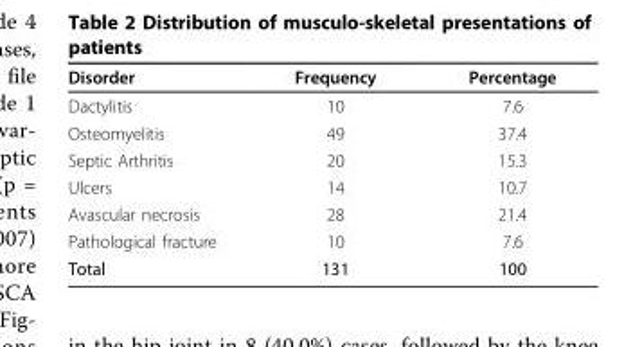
<table><thead><tr><td>Disorder</td><td>Frequency</td><td>Percentage</td></tr></thead><tbody><tr><td>Dactylitis</td><td>10</td><td>7.6</td></tr><tr><td>Osteomyelitis</td><td>49</td><td>37.4</td></tr><tr><td>Septic Arthritis</td><td>20</td><td>15.3</td></tr><tr><td>Ulcers</td><td>14</td><td>10.7</td></tr><tr><td>Avascular necrosis</td><td>28</td><td>21.4</td></tr><tr><td>Pathological fracture</td><td>10</td><td>7.6</td></tr><tr><td>Total</td><td>131</td><td>100</td></tr></tbody></table>